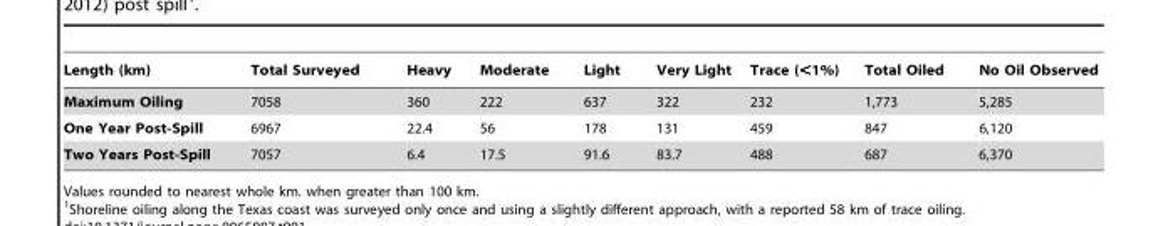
<table><thead><tr><td>Length (km)</td><td>Total Surveyed</td><td>Heavy</td><td>Moderate</td><td>Light</td><td>Very Light</td><td>Trace (&lt;1%)</td><td>Total Oiled</td><td>No Oil Observed</td></tr></thead><tbody><tr><td>Maximum Oiling</td><td>7058</td><td>360</td><td>222</td><td>637</td><td>322</td><td>232</td><td>1,773</td><td>5,285</td></tr><tr><td>One Year Post-Spill</td><td>6967</td><td>22.4</td><td>56</td><td>178</td><td>131</td><td>459</td><td>847</td><td>6,120</td></tr><tr><td>Two Years Post-Spill</td><td>7057</td><td>6.4</td><td>17.5</td><td>91.6</td><td>83.7</td><td>488</td><td>687</td><td>6,370</td></tr></tbody></table>